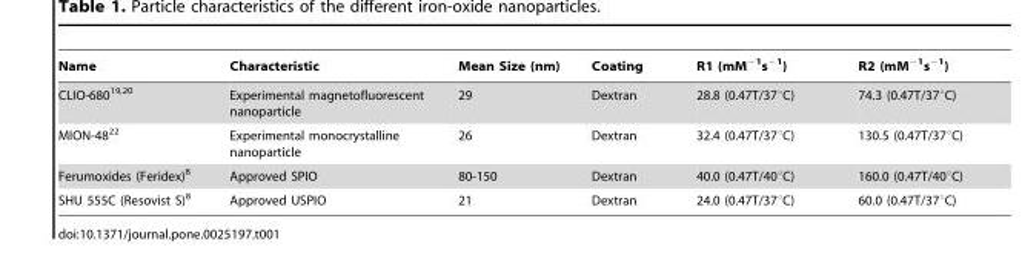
<table><thead><tr><td>Name</td><td>Characteristic</td><td>Mean Size (nm)</td><td>Coating</td><td>R1 (mM<sup>−1</sup>s<sup>−1</sup>)</td><td>R2 (mM<sup>−1</sup>s<sup>−1</sup>)</td></tr></thead><tbody><tr><td>CLIO-680<sup>19,20</sup></td><td>Experimental magnetofluorescent nanoparticle</td><td>29</td><td>Dextran</td><td>28.8 (0.47T/37°C)</td><td>74.3 (0.47T/37°C)</td></tr><tr><td>MION-48<sup>22</sup></td><td>Experimental monocrystalline nanoparticle</td><td>26</td><td>Dextran</td><td>32.4 (0.47T/37°C)</td><td>130.5 (0.47T/37°C)</td></tr><tr><td>Ferumoxides (Feridex)<sup>8</sup></td><td>Approved SPIO</td><td>80-150</td><td>Dextran</td><td>40.0 (0.47T/40°C)</td><td>160.0 (0.47T/40°C)</td></tr><tr><td>SHU 555C (Resovist S)<sup>8</sup></td><td>Approved USPIO</td><td>21</td><td>Dextran</td><td>24.0 (0.47T/37°C)</td><td>60.0 (0.47T/37°C)</td></tr></tbody></table>